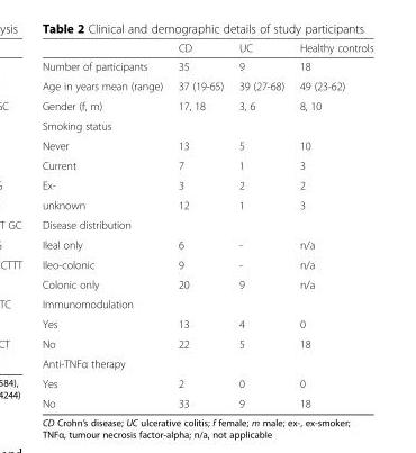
<table><thead><tr><td></td><td>CD</td><td>UC</td><td>Healthy controls</td></tr></thead><tbody><tr><td>Number of participants</td><td>35</td><td>9</td><td>18</td></tr><tr><td>Age in years mean (range)</td><td>37 (19-65)</td><td>39 (27-68)</td><td>49 (23-62)</td></tr><tr><td>Gender (f, m)</td><td>17, 18</td><td>3, 6</td><td>8, 10</td></tr><tr><td colspan="4">Smoking status</td></tr><tr><td>Never</td><td>13</td><td>5</td><td>10</td></tr><tr><td>Current</td><td>7</td><td>1</td><td>3</td></tr><tr><td>Ex-</td><td>3</td><td>2</td><td>2</td></tr><tr><td>unknown</td><td>12</td><td>1</td><td>3</td></tr><tr><td colspan="4">Disease distribution</td></tr><tr><td>Ileal only</td><td>6</td><td>-</td><td>n/a</td></tr><tr><td>Ileo-colonic</td><td>9</td><td>-</td><td>n/a</td></tr><tr><td>Colonic only</td><td>20</td><td>9</td><td>n/a</td></tr><tr><td colspan="4">Immunomodulation</td></tr><tr><td>Yes</td><td>13</td><td>4</td><td>0</td></tr><tr><td>No</td><td>22</td><td>5</td><td>18</td></tr><tr><td colspan="4">Anti-TNFα therapy</td></tr><tr><td>Yes</td><td>2</td><td>0</td><td>0</td></tr><tr><td>No</td><td>33</td><td>9</td><td>18</td></tr></tbody></table>